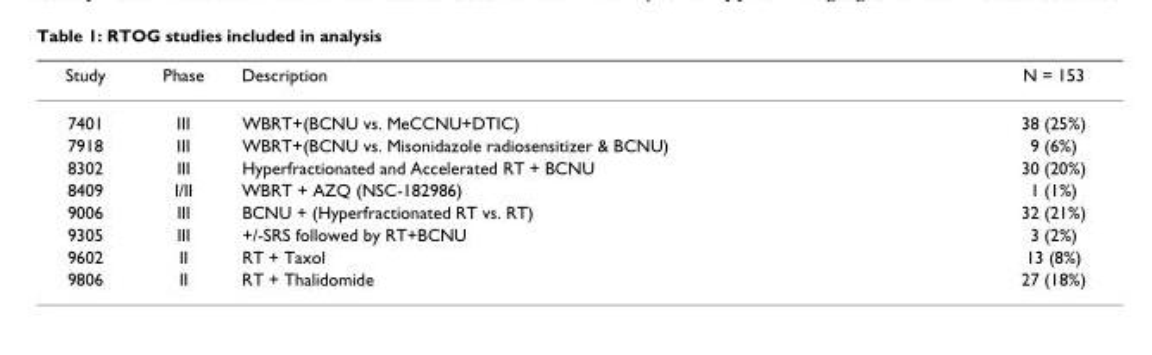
<table><thead><tr><td>Study</td><td>Phase</td><td>Description</td><td>N = 153</td></tr></thead><tbody><tr><td>7401</td><td>III</td><td>WBRT+(BCNU vs. MeCCNU+DTIC)</td><td>38 (25%)</td></tr><tr><td>7918</td><td>III</td><td>WBRT+(BCNU vs. Misonidazole radiosensitizer &amp; BCNU)</td><td>9 (6%)</td></tr><tr><td>8302</td><td>III</td><td>Hyperfractionated and Accelerated RT + BCNU</td><td>30 (20%)</td></tr><tr><td>8409</td><td>I/II</td><td>WBRT + AZQ (NSC-182986)</td><td>1 (1%)</td></tr><tr><td>9006</td><td>III</td><td>BCNU + (Hyperfractionated RT vs. RT)</td><td>32 (21%)</td></tr><tr><td>9305</td><td>III</td><td>+/-SRS followed by RT+BCNU</td><td>3 (2%)</td></tr><tr><td>9602</td><td>II</td><td>RT + Taxol</td><td>13 (8%)</td></tr><tr><td>9806</td><td>II</td><td>RT + Thalidomide</td><td>27 (18%)</td></tr></tbody></table>